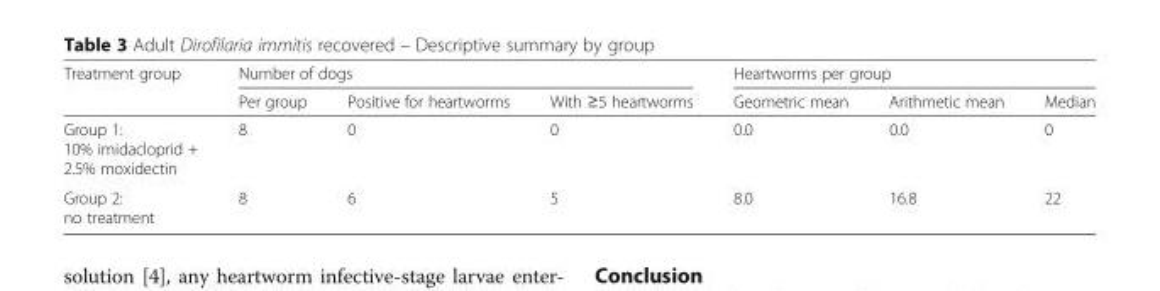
<table><thead><tr><td rowspan="2">Treatment group</td><td colspan="3">Number of dogs</td><td colspan="3">Heartworms per group</td></tr><tr><td>Per group</td><td>Positive for heartworms</td><td>With ≥5 heartworms</td><td>Geometric mean</td><td>Arithmetic mean</td><td>Median</td></tr></thead><tbody><tr><td>Group 1: 10% imidacloprid + 2.5% moxidectin</td><td>8</td><td>0</td><td>0</td><td>0.0</td><td>0.0</td><td>0</td></tr><tr><td>Group 2: no treatment</td><td>8</td><td>6</td><td>5</td><td>8.0</td><td>16.8</td><td>22</td></tr></tbody></table>